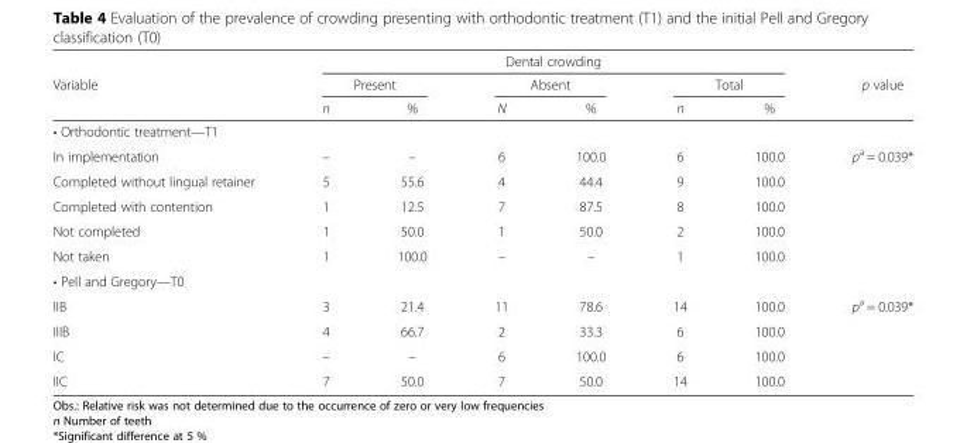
<table><thead><tr><td rowspan="3">Variable</td><td colspan="6">Dental crowding</td><td rowspan="3">p value</td></tr><tr><td colspan="2">Present</td><td colspan="2">Absent</td><td colspan="2">Total</td></tr><tr><td>n</td><td>%</td><td>N</td><td>%</td><td>n</td><td>%</td></tr></thead><tbody><tr><td colspan="8">• Orthodontic treatment—T1</td></tr><tr><td>In implementation</td><td>–</td><td>–</td><td>6</td><td>100.0</td><td>6</td><td>100.0</td><td>p<sup>a</sup> = 0.039*</td></tr><tr><td>Completed without lingual retainer</td><td>5</td><td>55.6</td><td>4</td><td>44.4</td><td>9</td><td>100.0</td><td></td></tr><tr><td>Completed with contention</td><td>1</td><td>12.5</td><td>7</td><td>87.5</td><td>8</td><td>100.0</td><td></td></tr><tr><td>Not completed</td><td>1</td><td>50.0</td><td>1</td><td>50.0</td><td>2</td><td>100.0</td><td></td></tr><tr><td>Not taken</td><td>1</td><td>100.0</td><td>–</td><td>–</td><td>1</td><td>100.0</td><td></td></tr><tr><td colspan="8">• Pell and Gregory—T0</td></tr><tr><td>IIB</td><td>3</td><td>21.4</td><td>11</td><td>78.6</td><td>14</td><td>100.0</td><td>p<sup>a</sup> = 0.039*</td></tr><tr><td>IIIB</td><td>4</td><td>66.7</td><td>2</td><td>33.3</td><td>6</td><td>100.0</td><td></td></tr><tr><td>IC</td><td>–</td><td>–</td><td>6</td><td>100.0</td><td>6</td><td>100.0</td><td></td></tr><tr><td>IIC</td><td>7</td><td>50.0</td><td>7</td><td>50.0</td><td>14</td><td>100.0</td><td></td></tr></tbody></table>